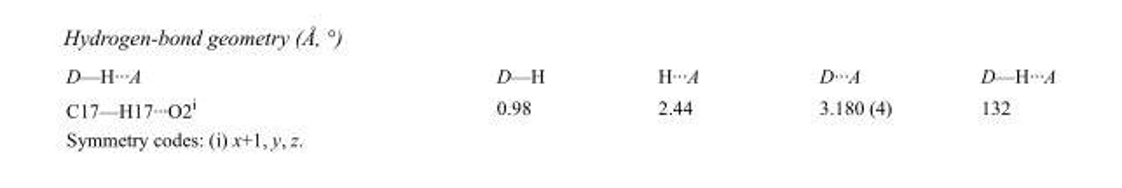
<table><tbody><tr><td>D—H···A</td><td>D—H</td><td>H···A</td><td>D···A</td><td>D—H···A</td></tr><tr><td>C17—H17···O2<sup>i</sup></td><td>0.98</td><td>2.44</td><td>3.180 (4)</td><td>132</td></tr></tbody></table>